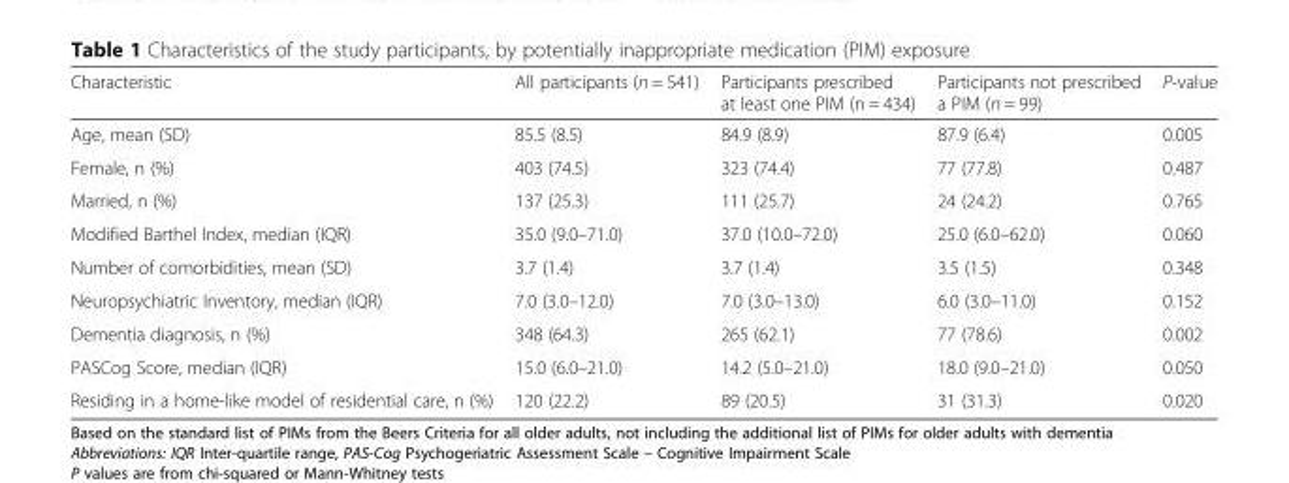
<table><thead><tr><td>Characteristic</td><td>All participants (n = 541)</td><td>Participants prescribed at least one PIM (n = 434)</td><td>Participants not prescribed a PIM (n = 99)</td><td>P-value</td></tr></thead><tbody><tr><td>Age, mean (SD)</td><td>85.5 (8.5)</td><td>84.9 (8.9)</td><td>87.9 (6.4)</td><td>0.005</td></tr><tr><td>Female, n (%)</td><td>403 (74.5)</td><td>323 (74.4)</td><td>77 (77.8)</td><td>0.487</td></tr><tr><td>Married, n (%)</td><td>137 (25.3)</td><td>111 (25.7)</td><td>24 (24.2)</td><td>0.765</td></tr><tr><td>Modified Barthel Index, median (IQR)</td><td>35.0 (9.0–71.0)</td><td>37.0 (10.0–72.0)</td><td>25.0 (6.0–62.0)</td><td>0.060</td></tr><tr><td>Number of comorbidities, mean (SD)</td><td>3.7 (1.4)</td><td>3.7 (1.4)</td><td>3.5 (1.5)</td><td>0.348</td></tr><tr><td>Neuropsychiatric Inventory, median (IQR)</td><td>7.0 (3.0–12.0)</td><td>7.0 (3.0–13.0)</td><td>6.0 (3.0–11.0)</td><td>0.152</td></tr><tr><td>Dementia diagnosis, n (%)</td><td>348 (64.3)</td><td>265 (62.1)</td><td>77 (78.6)</td><td>0.002</td></tr><tr><td>PASCog Score, median (IQR)</td><td>15.0 (6.0–21.0)</td><td>14.2 (5.0–21.0)</td><td>18.0 (9.0–21.0)</td><td>0.050</td></tr><tr><td>Residing in a home-like model of residential care, n (%)</td><td>120 (22.2)</td><td>89 (20.5)</td><td>31 (31.3)</td><td>0.020</td></tr></tbody></table>